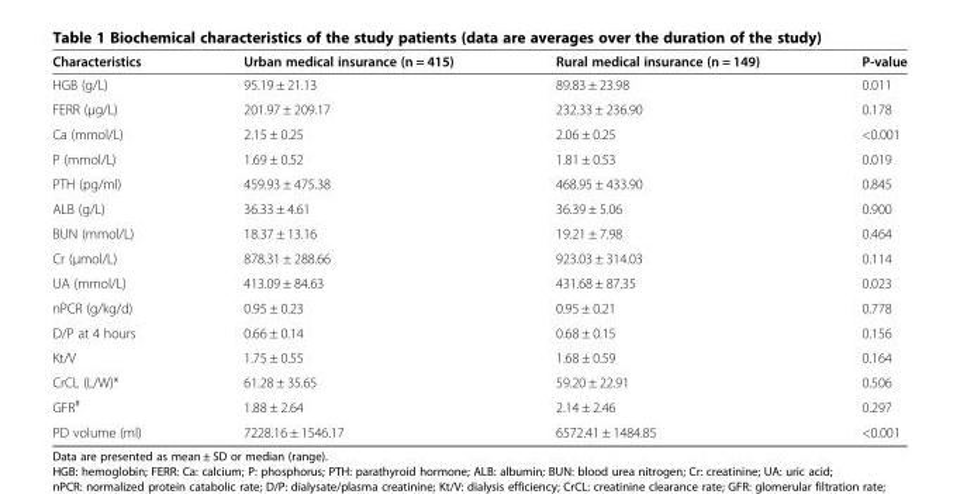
<table><thead><tr><td>Characteristics</td><td>Urban medical insurance (n = 415)</td><td>Rural medical insurance (n = 149)</td><td>P-value</td></tr></thead><tbody><tr><td>HGB (g/L)</td><td>95.19 ± 21.13</td><td>89.83 ± 23.98</td><td>0.011</td></tr><tr><td>FERR (μg/L)</td><td>201.97 ± 209.17</td><td>232.33 ± 236.90</td><td>0.178</td></tr><tr><td>Ca (mmol/L)</td><td>2.15 ± 0.25</td><td>2.06 ± 0.25</td><td>&lt;0.001</td></tr><tr><td>P (mmol/L)</td><td>1.69 ± 0.52</td><td>1.81 ± 0.53</td><td>0.019</td></tr><tr><td>PTH (pg/ml)</td><td>459.93 ± 475.38</td><td>468.95 ± 433.90</td><td>0.845</td></tr><tr><td>ALB (g/L)</td><td>36.33 ± 4.61</td><td>36.39 ± 5.06</td><td>0.900</td></tr><tr><td>BUN (mmol/L)</td><td>18.37 ± 13.16</td><td>19.21 ± 7.98</td><td>0.464</td></tr><tr><td>Cr (μmol/L)</td><td>878.31 ± 288.66</td><td>923.03 ± 314.03</td><td>0.114</td></tr><tr><td>UA (mmol/L)</td><td>413.09 ± 84.63</td><td>431.68 ± 87.35</td><td>0.023</td></tr><tr><td>nPCR (g/kg/d)</td><td>0.95 ± 0.23</td><td>0.95 ± 0.21</td><td>0.778</td></tr><tr><td>D/P at 4 hours</td><td>0.66 ± 0.14</td><td>0.68 ± 0.15</td><td>0.156</td></tr><tr><td>Kt/V</td><td>1.75 ± 0.55</td><td>1.68 ± 0.59</td><td>0.164</td></tr><tr><td>CrCL (L/W)*</td><td>61.28 ± 35.65</td><td>59.20 ± 22.91</td><td>0.506</td></tr><tr><td>GFR<sup>#</sup></td><td>1.88 ± 2.64</td><td>2.14 ± 2.46</td><td>0.297</td></tr><tr><td>PD volume (ml)</td><td>7228.16 ± 1546.17</td><td>6572.41 ± 1484.85</td><td>&lt;0.001</td></tr></tbody></table>